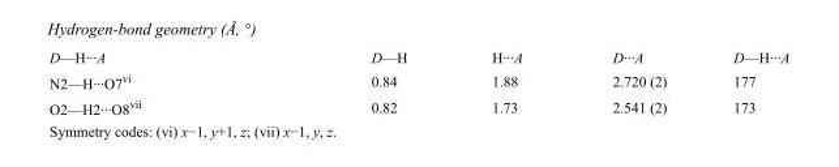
<table><tbody><tr><td>D—H···A</td><td>D—H</td><td>H···A</td><td>D···A</td><td>D—H···A</td></tr><tr><td>N2—H···O7<sup>vi</sup></td><td>0.84</td><td>1.88</td><td>2.720 (2)</td><td>177</td></tr><tr><td>O2—H2···O8<sup>vii</sup></td><td>0.82</td><td>1.73</td><td>2.541 (2)</td><td>173</td></tr></tbody></table>